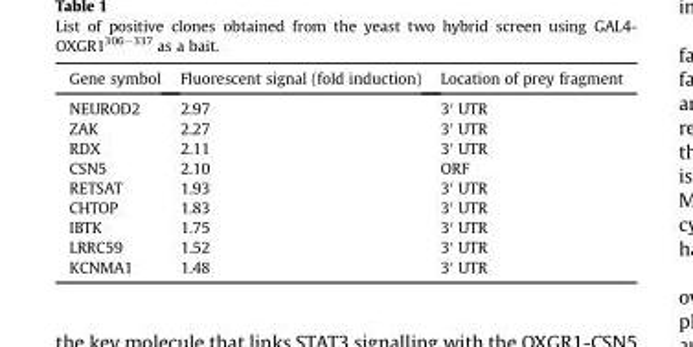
<table><thead><tr><td>Gene symbol</td><td>Fluorescent signal (fold induction)</td><td>Location of prey fragment</td></tr></thead><tbody><tr><td>NEUROD2</td><td>2.97</td><td>3′ UTR</td></tr><tr><td>ZAK</td><td>2.27</td><td>3′ UTR</td></tr><tr><td>RDX</td><td>2.11</td><td>3′ UTR</td></tr><tr><td>CSN5</td><td>2.10</td><td>ORF</td></tr><tr><td>RETSAT</td><td>1.93</td><td>3′ UTR</td></tr><tr><td>CHTOP</td><td>1.83</td><td>3′ UTR</td></tr><tr><td>IBTK</td><td>1.75</td><td>3′ UTR</td></tr><tr><td>LRRC59</td><td>1.52</td><td>3′ UTR</td></tr><tr><td>KCNMA1</td><td>1.48</td><td>3′ UTR</td></tr></tbody></table>